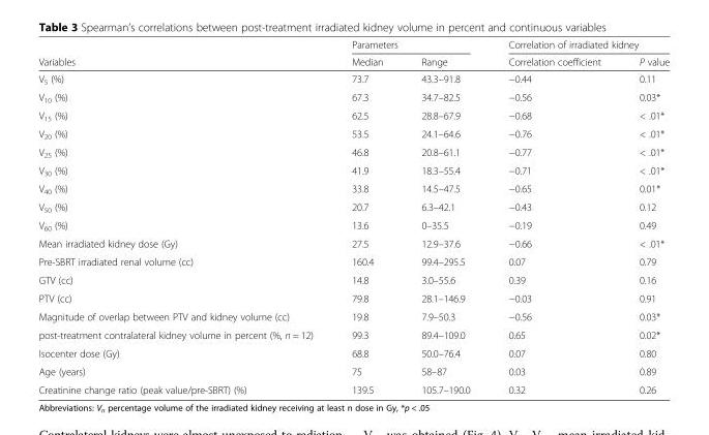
<table><thead><tr><td rowspan="2">Variables</td><td colspan="2">Parameters</td><td colspan="2">Correlation of irradiated kidney</td></tr><tr><td>Median</td><td>Range</td><td>Correlation coefficient</td><td>P value</td></tr></thead><tbody><tr><td>V<sub>5</sub> (%)</td><td>73.7</td><td>43.3–91.8</td><td>−0.44</td><td>0.11</td></tr><tr><td>V<sub>10</sub> (%)</td><td>67.3</td><td>34.7–82.5</td><td>−0.56</td><td>0.03*</td></tr><tr><td>V<sub>15</sub> (%)</td><td>62.5</td><td>28.8–67.9</td><td>−0.68</td><td>&lt; .01*</td></tr><tr><td>V<sub>20</sub> (%)</td><td>53.5</td><td>24.1–64.6</td><td>−0.76</td><td>&lt; .01*</td></tr><tr><td>V<sub>25</sub> (%)</td><td>46.8</td><td>20.8–61.1</td><td>−0.77</td><td>&lt; .01*</td></tr><tr><td>V<sub>30</sub> (%)</td><td>41.9</td><td>18.3–55.4</td><td>−0.71</td><td>&lt; .01*</td></tr><tr><td>V<sub>40</sub> (%)</td><td>33.8</td><td>14.5–47.5</td><td>−0.65</td><td>0.01*</td></tr><tr><td>V<sub>50</sub> (%)</td><td>20.7</td><td>6.3–42.1</td><td>−0.43</td><td>0.12</td></tr><tr><td>V<sub>60</sub> (%)</td><td>13.6</td><td>0–35.5</td><td>−0.19</td><td>0.49</td></tr><tr><td>Mean irradiated kidney dose (Gy)</td><td>27.5</td><td>12.9–37.6</td><td>−0.66</td><td>&lt; .01*</td></tr><tr><td>Pre-SBRT irradiated renal volume (cc)</td><td>160.4</td><td>99.4–295.5</td><td>0.07</td><td>0.79</td></tr><tr><td>GTV (cc)</td><td>14.8</td><td>3.0–55.6</td><td>0.39</td><td>0.16</td></tr><tr><td>PTV (cc)</td><td>79.8</td><td>28.1–146.9</td><td>−0.03</td><td>0.91</td></tr><tr><td>Magnitude of overlap between PTV and kidney volume (cc)</td><td>19.8</td><td>7.9–50.3</td><td>−0.56</td><td>0.03*</td></tr><tr><td>post-treatment contralateral kidney volume in percent (%, n = 12)</td><td>99.3</td><td>89.4–109.0</td><td>0.65</td><td>0.02*</td></tr><tr><td>Isocenter dose (Gy)</td><td>68.8</td><td>50.0–76.4</td><td>0.07</td><td>0.80</td></tr><tr><td>Age (years)</td><td>75</td><td>58–87</td><td>0.03</td><td>0.89</td></tr><tr><td>Creatinine change ratio (peak value/pre-SBRT) (%)</td><td>139.5</td><td>105.7–190.0</td><td>0.32</td><td>0.26</td></tr></tbody></table>